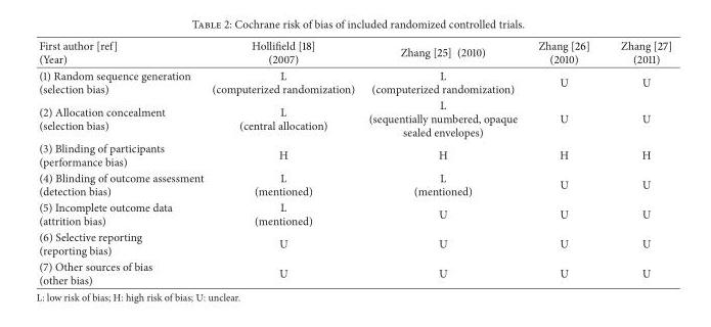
<table><thead><tr><td>First author [ref] (Year)</td><td>Hollifield [18] (2007)</td><td>Zhang [25] (2010)</td><td>Zhang [26] (2010)</td><td>Zhang [27] (2011)</td></tr></thead><tbody><tr><td>(1) Random sequence generation (selection bias)</td><td>L (computerized randomization)</td><td>L (computerized randomization)</td><td>U</td><td>U</td></tr><tr><td>(2) Allocation concealment (selection bias)</td><td>L (central allocation)</td><td>L (sequentially numbered, opaque sealed envelopes)</td><td>U</td><td>U</td></tr><tr><td>(3) Blinding of participants (performance bias)</td><td>H</td><td>H</td><td>H</td><td>H</td></tr><tr><td>(4) Blinding of outcome assessment (detection bias)</td><td>L (mentioned)</td><td>L (mentioned)</td><td>U</td><td>U</td></tr><tr><td>(5) Incomplete outcome data (attrition bias)</td><td>L (mentioned)</td><td>U</td><td>U</td><td>U</td></tr><tr><td>(6) Selective reporting (reporting bias)</td><td>U</td><td>U</td><td>U</td><td>U</td></tr><tr><td>(7) Other sources of bias (other bias)</td><td>U</td><td>U</td><td>U</td><td>U</td></tr></tbody></table>